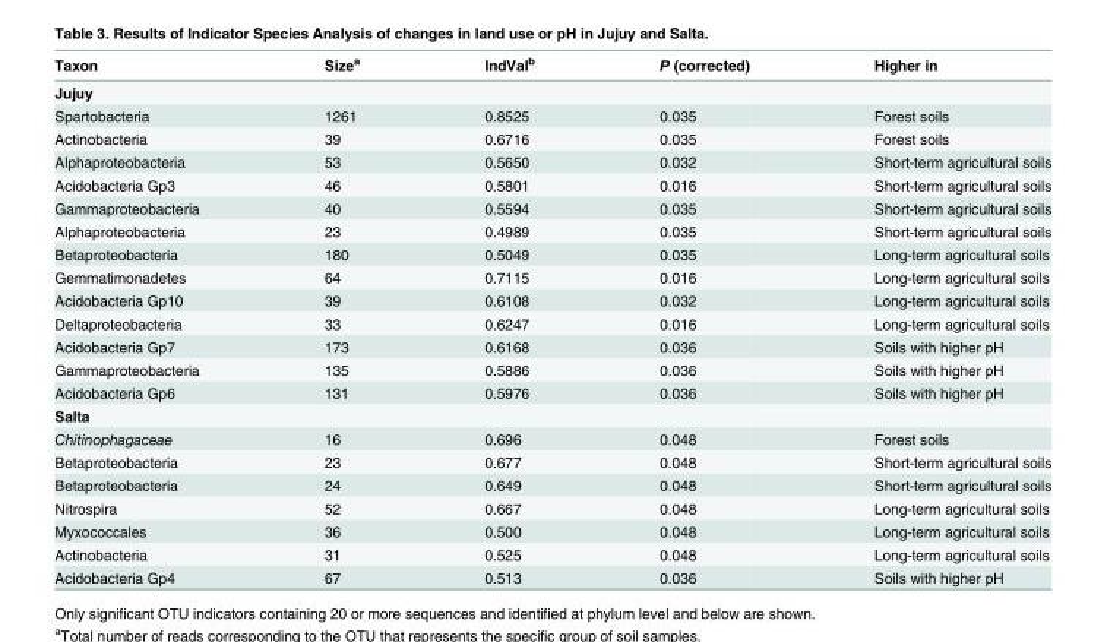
<table><thead><tr><td>Taxon</td><td>Size<sup>a</sup></td><td>IndVal<sup>b</sup></td><td>P (corrected)</td><td>Higher in</td></tr></thead><tbody><tr><td colspan="5">Jujuy</td></tr><tr><td>Spartobacteria</td><td>1261</td><td>0.8525</td><td>0.035</td><td>Forest soils</td></tr><tr><td>Actinobacteria</td><td>39</td><td>0.6716</td><td>0.035</td><td>Forest soils</td></tr><tr><td>Alphaproteobacteria</td><td>53</td><td>0.5650</td><td>0.032</td><td>Short-term agricultural soils</td></tr><tr><td>Acidobacteria Gp3</td><td>46</td><td>0.5801</td><td>0.016</td><td>Short-term agricultural soils</td></tr><tr><td>Gammaproteobacteria</td><td>40</td><td>0.5594</td><td>0.035</td><td>Short-term agricultural soils</td></tr><tr><td>Alphaproteobacteria</td><td>23</td><td>0.4989</td><td>0.035</td><td>Short-term agricultural soils</td></tr><tr><td>Betaproteobacteria</td><td>180</td><td>0.5049</td><td>0.035</td><td>Long-term agricultural soils</td></tr><tr><td>Gemmatimonadetes</td><td>64</td><td>0.7115</td><td>0.016</td><td>Long-term agricultural soils</td></tr><tr><td>Acidobacteria Gp10</td><td>39</td><td>0.6108</td><td>0.032</td><td>Long-term agricultural soils</td></tr><tr><td>Deltaproteobacteria</td><td>33</td><td>0.6247</td><td>0.016</td><td>Long-term agricultural soils</td></tr><tr><td>Acidobacteria Gp7</td><td>173</td><td>0.6168</td><td>0.036</td><td>Soils with higher pH</td></tr><tr><td>Gammaproteobacteria</td><td>135</td><td>0.5886</td><td>0.036</td><td>Soils with higher pH</td></tr><tr><td>Acidobacteria Gp6</td><td>131</td><td>0.5976</td><td>0.036</td><td>Soils with higher pH</td></tr><tr><td colspan="5">Salta</td></tr><tr><td>Chitinophagaceae</td><td>16</td><td>0.696</td><td>0.048</td><td>Forest soils</td></tr><tr><td>Betaproteobacteria</td><td>23</td><td>0.677</td><td>0.048</td><td>Short-term agricultural soils</td></tr><tr><td>Betaproteobacteria</td><td>24</td><td>0.649</td><td>0.048</td><td>Short-term agricultural soils</td></tr><tr><td>Nitrospira</td><td>52</td><td>0.667</td><td>0.048</td><td>Long-term agricultural soils</td></tr><tr><td>Myxococcales</td><td>36</td><td>0.500</td><td>0.048</td><td>Long-term agricultural soils</td></tr><tr><td>Actinobacteria</td><td>31</td><td>0.525</td><td>0.048</td><td>Long-term agricultural soils</td></tr><tr><td>Acidobacteria Gp4</td><td>67</td><td>0.513</td><td>0.036</td><td>Soils with higher pH</td></tr></tbody></table>